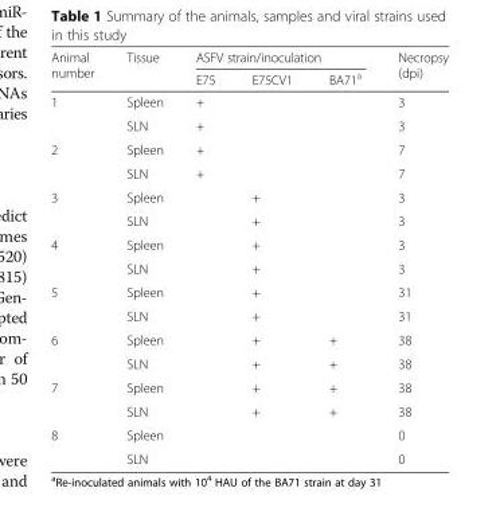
<table><thead><tr><td rowspan="2">Animal number</td><td rowspan="2">Tissue</td><td colspan="3">ASFV strain/inoculation</td><td rowspan="2">Necropsy (dpi)</td></tr><tr><td>E75</td><td>E75CV1</td><td>BA71<sup>a</sup></td></tr></thead><tbody><tr><td rowspan="2">1</td><td>Spleen</td><td>+</td><td></td><td></td><td>3</td></tr><tr><td>SLN</td><td>+</td><td></td><td></td><td>3</td></tr><tr><td rowspan="2">2</td><td>Spleen</td><td>+</td><td></td><td></td><td>7</td></tr><tr><td>SLN</td><td>+</td><td></td><td></td><td>7</td></tr><tr><td rowspan="2">3</td><td>Spleen</td><td></td><td>+</td><td></td><td>3</td></tr><tr><td>SLN</td><td></td><td>+</td><td></td><td>3</td></tr><tr><td rowspan="2">4</td><td>Spleen</td><td></td><td>+</td><td></td><td>3</td></tr><tr><td>SLN</td><td></td><td>+</td><td></td><td>3</td></tr><tr><td rowspan="2">5</td><td>Spleen</td><td></td><td>+</td><td></td><td>31</td></tr><tr><td>SLN</td><td></td><td>+</td><td></td><td>31</td></tr><tr><td rowspan="2">6</td><td>Spleen</td><td></td><td>+</td><td>+</td><td>38</td></tr><tr><td>SLN</td><td></td><td>+</td><td>+</td><td>38</td></tr><tr><td rowspan="2">7</td><td>Spleen</td><td></td><td>+</td><td>+</td><td>38</td></tr><tr><td>SLN</td><td></td><td>+</td><td>+</td><td>38</td></tr><tr><td rowspan="2">8</td><td>Spleen</td><td></td><td></td><td></td><td>0</td></tr><tr><td>SLN</td><td></td><td></td><td></td><td>0</td></tr></tbody></table>